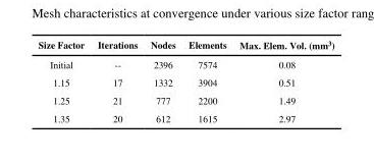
<table><thead><tr><td>Size Factor</td><td>Iterations</td><td>Nodes</td><td>Elements</td><td>Max. Elem. Vol. (mm<sup>3</sup>)</td></tr></thead><tbody><tr><td>Initial</td><td>--</td><td>2396</td><td>7574</td><td>0.08</td></tr><tr><td>1.15</td><td>17</td><td>1332</td><td>3904</td><td>0.51</td></tr><tr><td>1.25</td><td>21</td><td>777</td><td>2200</td><td>1.49</td></tr><tr><td>1.35</td><td>20</td><td>612</td><td>1615</td><td>2.97</td></tr></tbody></table>